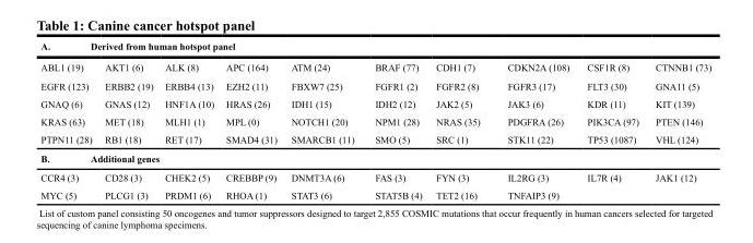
<table><tbody><tr><td colspan="10">A. Derived from human hotspot panel</td></tr><tr><td>ABL1 (19)</td><td>AKT1 (6)</td><td>ALK (8)</td><td>APC (164)</td><td>ATM (24)</td><td>BRAF (77)</td><td>CDH1 (7)</td><td>CDKN2A (108)</td><td>CSF1R (8)</td><td>CTNNB1 (73)</td></tr><tr><td>EGFR (123)</td><td>ERBB2 (19)</td><td>ERBB4 (13)</td><td>EZH2 (11)</td><td>FBXW7 (25)</td><td>FGFR1 (2)</td><td>FGFR2 (8)</td><td>FGFR3 (17)</td><td>FLT3 (30)</td><td>GNA11 (5)</td></tr><tr><td>GNAQ (6)</td><td>GNAS (12)</td><td>HNF1A (10)</td><td>HRAS (26)</td><td>IDH1 (15)</td><td>IDH2 (12)</td><td>JAK2 (5)</td><td>JAK3 (6)</td><td>KDR (11)</td><td>KIT (139)</td></tr><tr><td>KRAS (63)</td><td>MET (18)</td><td>MLH1 (1)</td><td>MPL (0)</td><td>NOTCH1 (20)</td><td>NPM1 (28)</td><td>NRAS (35)</td><td>PDGFRA (26)</td><td>PIK3CA (97)</td><td>PTEN (146)</td></tr><tr><td>PTPN11 (28)</td><td>RB1 (18)</td><td>RET (17)</td><td>SMAD4 (31)</td><td>SMARCB1 (11)</td><td>SMO (5)</td><td>SRC (1)</td><td>STK11 (22)</td><td>TP53 (1087)</td><td>VHL (124)</td></tr><tr><td colspan="10">B. Additional genes</td></tr><tr><td>CCR4 (3)</td><td>CD28 (3)</td><td>CHEK2 (5)</td><td>CREBBP (9)</td><td>DNMT3A (6)</td><td>FAS (3)</td><td>FYN (3)</td><td>IL2RG (3)</td><td>IL7R (4)</td><td>JAK1 (12)</td></tr><tr><td>MYC (5)</td><td>PLCG1 (3)</td><td>PRDM1 (6)</td><td>RHOA (1)</td><td>STAT3 (6)</td><td>STAT5B (4)</td><td>TET2 (16)</td><td>TNFAIP3 (9)</td><td></td><td></td></tr></tbody></table>